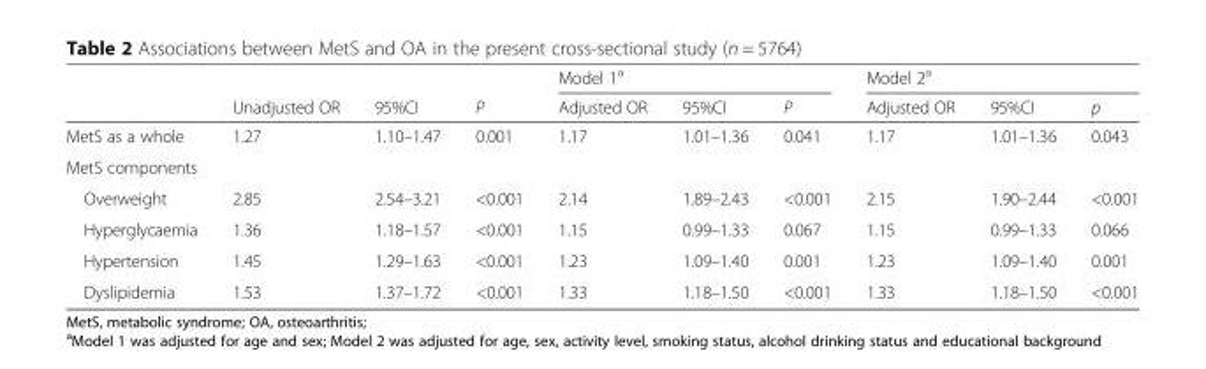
<table><thead><tr><td rowspan="2"></td><td rowspan="2">Unadjusted OR</td><td rowspan="2">95%CI</td><td rowspan="2">P</td><td colspan="3">Model 1<sup>a</sup></td><td colspan="3">Model 2<sup>a</sup></td></tr><tr><td>Adjusted OR</td><td>95%CI</td><td>P</td><td>Adjusted OR</td><td>95%CI</td><td>p</td></tr></thead><tbody><tr><td>MetS as a whole</td><td>1.27</td><td>1.10–1.47</td><td>0.001</td><td>1.17</td><td>1.01–1.36</td><td>0.041</td><td>1.17</td><td>1.01–1.36</td><td>0.043</td></tr><tr><td colspan="10">MetS components</td></tr><tr><td>Overweight</td><td>2.85</td><td>2.54–3.21</td><td>&lt;0.001</td><td>2.14</td><td>1.89–2.43</td><td>&lt;0.001</td><td>2.15</td><td>1.90–2.44</td><td>&lt;0.001</td></tr><tr><td>Hyperglycaemia</td><td>1.36</td><td>1.18–1.57</td><td>&lt;0.001</td><td>1.15</td><td>0.99–1.33</td><td>0.067</td><td>1.15</td><td>0.99–1.33</td><td>0.066</td></tr><tr><td>Hypertension</td><td>1.45</td><td>1.29–1.63</td><td>&lt;0.001</td><td>1.23</td><td>1.09–1.40</td><td>0.001</td><td>1.23</td><td>1.09–1.40</td><td>0.001</td></tr><tr><td>Dyslipidemia</td><td>1.53</td><td>1.37–1.72</td><td>&lt;0.001</td><td>1.33</td><td>1.18–1.50</td><td>&lt;0.001</td><td>1.33</td><td>1.18–1.50</td><td>&lt;0.001</td></tr></tbody></table>